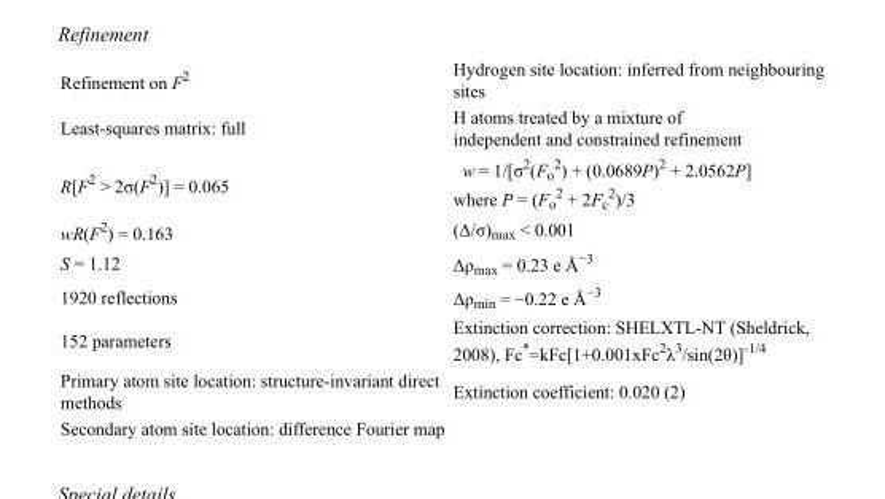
<table><tbody><tr><td>Refinement on F<sup>2</sup></td><td>Hydrogen site location: inferred from neighbouring sites</td></tr><tr><td>Least-squares matrix: full</td><td>H atoms treated by a mixture of independent and constrained refinement</td></tr><tr><td>R[F<sup>2</sup> &gt; 2σ(F<sup>2</sup>)] = 0.065</td><td>w = 1/[σ<sup>2</sup>(F<sub>o</sub> <sup>2</sup>) + (0.0689P)<sup>2</sup> + 2.0562P] where P = (F<sub>o</sub> <sup>2</sup> + 2F<sub>c</sub> <sup>2</sup>)/3</td></tr><tr><td>wR(F<sup>2</sup>) = 0.163</td><td>(Δ/σ)<sub>max</sub> &lt; 0.001</td></tr><tr><td>S = 1.12</td><td>Δρ<sub>max</sub> = 0.23 e Å<sup>−3</sup></td></tr><tr><td>1920 reflections</td><td>Δρ<sub>min</sub> = −0.22 e Å<sup>−3</sup></td></tr><tr><td>152 parameters</td><td>Extinction correction: SHELXTL-NT (Sheldrick, 2008), Fc*=kFc[1+0.001xFc<sup>2</sup>λ<sup>3</sup>/sin(2θ)]<sup>-1/4</sup></td></tr><tr><td>Primary atom site location: structure-invariant direct methods</td><td>Extinction coefficient: 0.020 (2)</td></tr><tr><td>Secondary atom site location: difference Fourier map</td><td></td></tr></tbody></table>